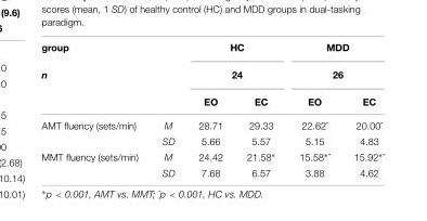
<table><thead><tr><td rowspan="3">group n</td><td rowspan="3"></td><td rowspan="2" colspan="2">HC 24</td><td rowspan="2" colspan="2">MDD 26</td></tr><tr></tr><tr><td>EO</td><td>EC</td><td>EO</td><td>EC</td></tr></thead><tbody><tr><td rowspan="2">AMT fluency (sets/min)</td><td>M</td><td>28.71</td><td>29.33</td><td>22.62ˆ</td><td>20.00ˆ</td></tr><tr><td>SD</td><td>5.66</td><td>5.57</td><td>5.15</td><td>4.83</td></tr><tr><td rowspan="2">MMT fluency (sets/min)</td><td>M</td><td>24.42</td><td>21.58∗</td><td>15.58∗ˆ</td><td>15.92∗ˆ</td></tr><tr><td>SD</td><td>7.68</td><td>6.57</td><td>3.88</td><td>4.62</td></tr></tbody></table>